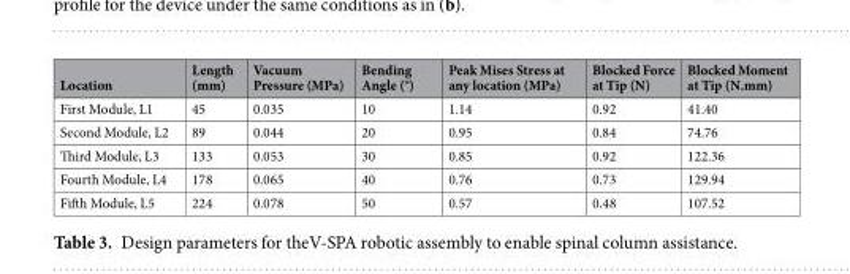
<table><thead><tr><td>Location</td><td>Length (mm)</td><td>Vacuum Pressure (MPa)</td><td>Bending Angle (°)</td><td>Peak Mises Stress at any location (MPa)</td><td>Blocked Force at Tip (N)</td><td>Blocked Moment at Tip (N.mm)</td></tr></thead><tbody><tr><td>First Module, L1</td><td>45</td><td>0.035</td><td>10</td><td>1.14</td><td>0.92</td><td>41.40</td></tr><tr><td>Second Module, L2</td><td>89</td><td>0.044</td><td>20</td><td>0.95</td><td>0.84</td><td>74.76</td></tr><tr><td>Third Module, L3</td><td>133</td><td>0.053</td><td>30</td><td>0.85</td><td>0.92</td><td>122.36</td></tr><tr><td>Fourth Module, L4</td><td>178</td><td>0.065</td><td>40</td><td>0.76</td><td>0.73</td><td>129.94</td></tr><tr><td>Fifth Module, L5</td><td>224</td><td>0.078</td><td>50</td><td>0.57</td><td>0.48</td><td>107.52</td></tr></tbody></table>